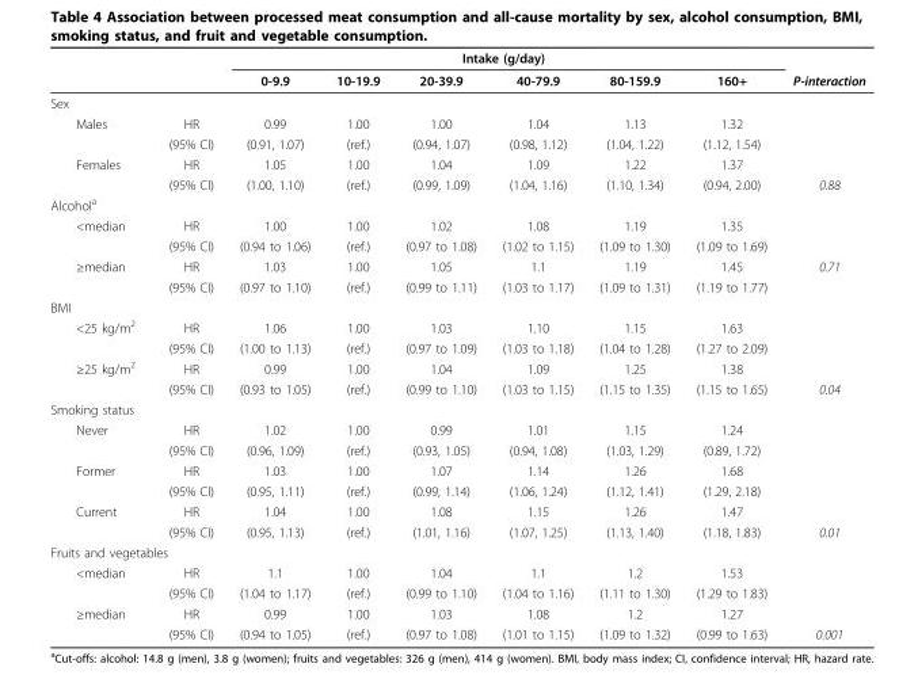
<table><thead><tr><td rowspan="2"></td><td rowspan="2"></td><td colspan="6">Intake (g/day)</td><td rowspan="2">P-interaction</td></tr><tr><td>0-9.9</td><td>10-19.9</td><td>20-39.9</td><td>40-79.9</td><td>80-159.9</td><td>160+</td></tr></thead><tbody><tr><td colspan="9">Sex</td></tr><tr><td rowspan="2">Males</td><td>HR</td><td>0.99</td><td>1.00</td><td>1.00</td><td>1.04</td><td>1.13</td><td>1.32</td><td></td></tr><tr><td>(95% CI)</td><td>(0.91, 1.07)</td><td>(ref.)</td><td>(0.94, 1.07)</td><td>(0.98, 1.12)</td><td>(1.04, 1.22)</td><td>(1.12, 1.54)</td><td></td></tr><tr><td rowspan="2">Females</td><td>HR</td><td>1.05</td><td>1.00</td><td>1.04</td><td>1.09</td><td>1.22</td><td>1.37</td><td></td></tr><tr><td>(95% CI)</td><td>(1.00, 1.10)</td><td>(ref.)</td><td>(0.99, 1.09)</td><td>(1.04, 1.16)</td><td>(1.10, 1.34)</td><td>(0.94, 2.00)</td><td>0.88</td></tr><tr><td colspan="9">Alcohol<sup>a</sup></td></tr><tr><td rowspan="2">&lt;median</td><td>HR</td><td>1.00</td><td>1.00</td><td>1.02</td><td>1.08</td><td>1.19</td><td>1.35</td><td></td></tr><tr><td>(95% CI)</td><td>(0.94 to 1.06)</td><td>(ref.)</td><td>(0.97 to 1.08)</td><td>(1.02 to 1.15)</td><td>(1.09 to 1.30)</td><td>(1.09 to 1.69)</td><td></td></tr><tr><td rowspan="2">≥median</td><td>HR</td><td>1.03</td><td>1.00</td><td>1.05</td><td>1.1</td><td>1.19</td><td>1.45</td><td>0.71</td></tr><tr><td>(95% CI)</td><td>(0.97 to 1.10)</td><td>(ref.)</td><td>(0.99 to 1.11)</td><td>(1.03 to 1.17)</td><td>(1.09 to 1.31)</td><td>(1.19 to 1.77)</td><td></td></tr><tr><td colspan="9">BMI</td></tr><tr><td rowspan="2">&lt;25 kg/m<sup>2</sup></td><td>HR</td><td>1.06</td><td>1.00</td><td>1.03</td><td>1.10</td><td>1.15</td><td>1.63</td><td></td></tr><tr><td>(95% CI)</td><td>(1.00 to 1.13)</td><td>(ref.)</td><td>(0.97 to 1.09)</td><td>(1.03 to 1.18)</td><td>(1.04 to 1.28)</td><td>(1.27 to 2.09)</td><td></td></tr><tr><td rowspan="2">≥25 kg/m<sup>2</sup></td><td>HR</td><td>0.99</td><td>1.00</td><td>1.04</td><td>1.09</td><td>1.25</td><td>1.38</td><td></td></tr><tr><td>(95% CI)</td><td>(0.93 to 1.05)</td><td>(ref.)</td><td>(0.99 to 1.10)</td><td>(1.03 to 1.15)</td><td>(1.15 to 1.35)</td><td>(1.15 to 1.65)</td><td>0.04</td></tr><tr><td colspan="9">Smoking status</td></tr><tr><td rowspan="2">Never</td><td>HR</td><td>1.02</td><td>1.00</td><td>0.99</td><td>1.01</td><td>1.15</td><td>1.24</td><td></td></tr><tr><td>(95% CI)</td><td>(0.96, 1.09)</td><td>(ref.)</td><td>(0.93, 1.05)</td><td>(0.94, 1.08)</td><td>(1.03, 1.29)</td><td>(0.89, 1.72)</td><td></td></tr><tr><td rowspan="2">Former</td><td>HR</td><td>1.03</td><td>1.00</td><td>1.07</td><td>1.14</td><td>1.26</td><td>1.68</td><td></td></tr><tr><td>(95% CI)</td><td>(0.95, 1.11)</td><td>(ref.)</td><td>(0.99, 1.14)</td><td>(1.06, 1.24)</td><td>(1.12, 1.41)</td><td>(1.29, 2.18)</td><td></td></tr><tr><td rowspan="2">Current</td><td>HR</td><td>1.04</td><td>1.00</td><td>1.08</td><td>1.15</td><td>1.26</td><td>1.47</td><td></td></tr><tr><td>(95% CI)</td><td>(0.95, 1.13)</td><td>(ref.)</td><td>(1.01, 1.16)</td><td>(1.07, 1.25)</td><td>(1.13, 1.40)</td><td>(1.18, 1.83)</td><td>0.01</td></tr><tr><td colspan="9">Fruits and vegetables</td></tr><tr><td rowspan="2">&lt;median</td><td>HR</td><td>1.1</td><td>1.00</td><td>1.04</td><td>1.1</td><td>1.2</td><td>1.53</td><td></td></tr><tr><td>(95% CI)</td><td>(1.04 to 1.17)</td><td>(ref.)</td><td>(0.99 to 1.10)</td><td>(1.04 to 1.16)</td><td>(1.11 to 1.30)</td><td>(1.29 to 1.83)</td><td></td></tr><tr><td rowspan="2">≥median</td><td>HR</td><td>0.99</td><td>1.00</td><td>1.03</td><td>1.08</td><td>1.2</td><td>1.27</td><td></td></tr><tr><td>(95% CI)</td><td>(0.94 to 1.05)</td><td>(ref.)</td><td>(0.97 to 1.08)</td><td>(1.01 to 1.15)</td><td>(1.09 to 1.32)</td><td>(0.99 to 1.63)</td><td>0.001</td></tr></tbody></table>